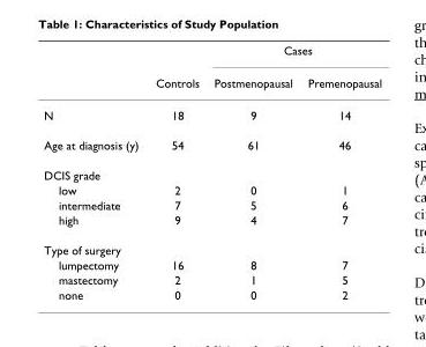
<table><thead><tr><td rowspan="2"></td><td rowspan="2">Controls</td><td colspan="2">Cases</td></tr><tr><td>Postmenopausal</td><td>Premenopausal</td></tr></thead><tbody><tr><td>N</td><td>18</td><td>9</td><td>14</td></tr><tr><td>Age at diagnosis (y)</td><td>54</td><td>61</td><td>46</td></tr><tr><td colspan="4">DCIS grade</td></tr><tr><td>low</td><td>2</td><td>0</td><td>1</td></tr><tr><td>intermediate</td><td>7</td><td>5</td><td>6</td></tr><tr><td>high</td><td>9</td><td>4</td><td>7</td></tr><tr><td colspan="4">Type of surgery</td></tr><tr><td>lumpectomy</td><td>16</td><td>8</td><td>7</td></tr><tr><td>mastectomy</td><td>2</td><td>1</td><td>5</td></tr><tr><td>none</td><td>0</td><td>0</td><td>2</td></tr></tbody></table>